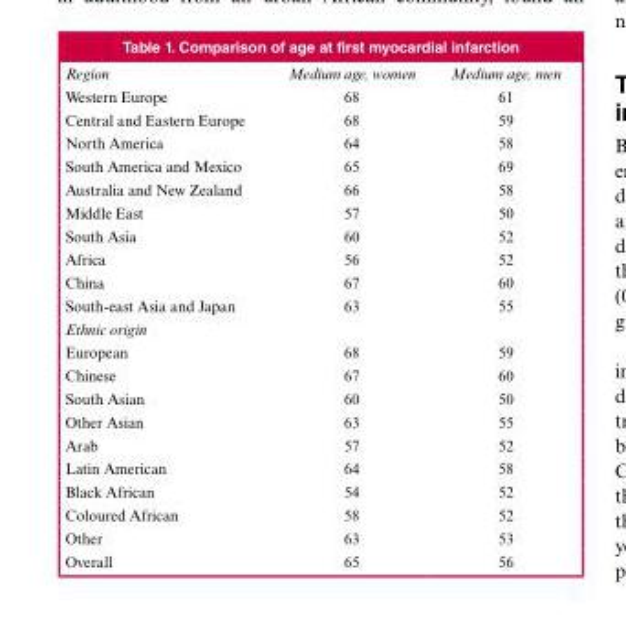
<table><thead><tr><td>Region</td><td>Medium age, women</td><td>Medium age, men</td></tr></thead><tbody><tr><td>Western Europe</td><td>68</td><td>61</td></tr><tr><td>Central and Eastern Europe</td><td>68</td><td>59</td></tr><tr><td>North America</td><td>64</td><td>58</td></tr><tr><td>South America and Mexico</td><td>65</td><td>69</td></tr><tr><td>Australia and New Zealand</td><td>66</td><td>58</td></tr><tr><td>Middle East</td><td>57</td><td>50</td></tr><tr><td>South Asia</td><td>60</td><td>52</td></tr><tr><td>Africa</td><td>56</td><td>52</td></tr><tr><td>China</td><td>67</td><td>60</td></tr><tr><td>South-east Asia and Japan</td><td>63</td><td>55</td></tr><tr><td colspan="3">Ethnic origin</td></tr><tr><td>European</td><td>68</td><td>59</td></tr><tr><td>Chinese</td><td>67</td><td>60</td></tr><tr><td>South Asian</td><td>60</td><td>50</td></tr><tr><td>Other Asian</td><td>63</td><td>55</td></tr><tr><td>Arab</td><td>57</td><td>52</td></tr><tr><td>Latin American</td><td>64</td><td>58</td></tr><tr><td>Black African</td><td>54</td><td>52</td></tr><tr><td>Coloured African</td><td>58</td><td>52</td></tr><tr><td>Other</td><td>63</td><td>53</td></tr><tr><td>Overall</td><td>65</td><td>56</td></tr></tbody></table>